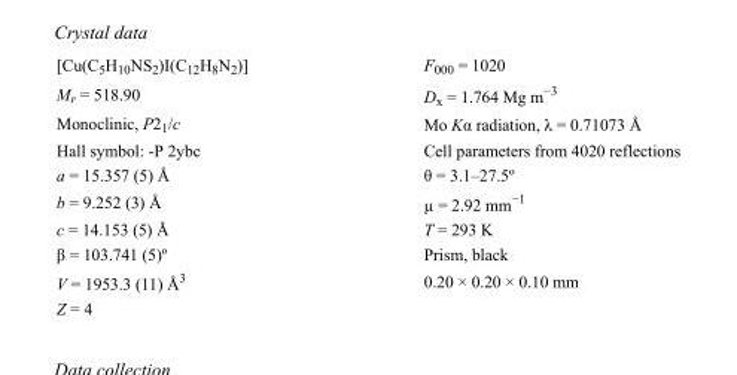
<table><tbody><tr><td>[Cu(C<sub>5</sub>H<sub>10</sub>NS<sub>2</sub>)I(C<sub>12</sub>H<sub>8</sub>N<sub>2</sub>)]</td><td>F000 = 1020</td></tr><tr><td>M<sub>r</sub> = 518.90</td><td>D<sub>x</sub> = 1.764 Mg m<sup>−3</sup></td></tr><tr><td>Monoclinic, P2<sub>1</sub>/c</td><td>Mo Kα radiation, λ = 0.71073 Å</td></tr><tr><td>Hall symbol: -P 2ybc</td><td>Cell parameters from 4020 reflections</td></tr><tr><td>a = 15.357 (5) Å</td><td>θ = 3.1–27.5º</td></tr><tr><td>b = 9.252 (3) Å</td><td>µ = 2.92 mm<sup>−1</sup></td></tr><tr><td>c = 14.153 (5) Å</td><td>T = 293 K</td></tr><tr><td>β = 103.741 (5)º</td><td>Prism, black</td></tr><tr><td>V = 1953.3 (11) Å<sup>3</sup></td><td>0.20 × 0.20 × 0.10 mm</td></tr><tr><td>Z = 4</td><td></td></tr></tbody></table>